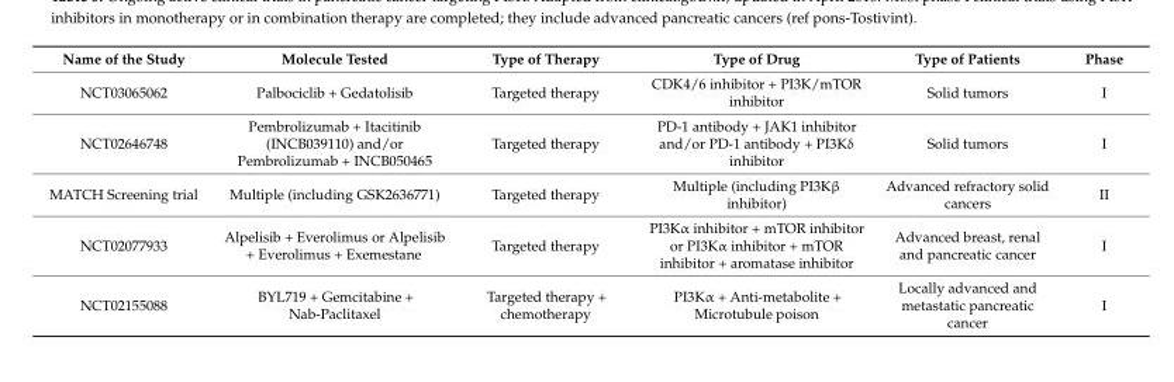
<table><thead><tr><td>Name of the Study</td><td>Molecule Tested</td><td>Type of Therapy</td><td>Type of Drug</td><td>Type of Patients</td><td>Phase</td></tr></thead><tbody><tr><td>NCT03065062</td><td>Palbociclib + Gedatolisib</td><td>Targeted therapy</td><td>CDK4/6 inhibitor + PI3K/mTOR inhibitor</td><td>Solid tumors</td><td>I</td></tr><tr><td>NCT02646748</td><td>Pembrolizumab + Itacitinib (INCB039110) and/or Pembrolizumab + INCB050465</td><td>Targeted therapy</td><td>PD-1 antibody + JAK1 inhibitor and/or PD-1 antibody + PI3Kδ inhibitor</td><td>Solid tumors</td><td>I</td></tr><tr><td>MATCH Screening trial</td><td>Multiple (including GSK2636771)</td><td>Targeted therapy</td><td>Multiple (including PI3Kβ inhibitor)</td><td>Advanced refractory solid cancers</td><td>II</td></tr><tr><td>NCT02077933</td><td>Alpelisib + Everolimus or Alpelisib + Everolimus + Exemestane</td><td>Targeted therapy</td><td>PI3Kα inhibitor + mTOR inhibitor or PI3Kα inhibitor + mTOR inhibitor + aromatase inhibitor</td><td>Advanced breast, renal and pancreatic cancer</td><td>I</td></tr><tr><td>NCT02155088</td><td>BYL719 + Gemcitabine + Nab-Paclitaxel</td><td>Targeted therapy + chemotherapy</td><td>PI3Kα + Anti-metabolite + Microtubule poison</td><td>Locally advanced and metastatic pancreatic cancer</td><td>I</td></tr></tbody></table>